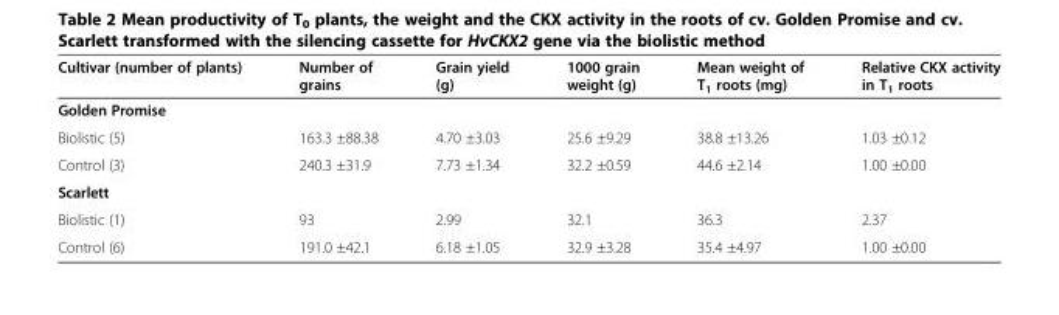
<table><thead><tr><td>Cultivar (number of plants)</td><td>Number of grains</td><td>Grain yield (g)</td><td>1000 grain weight (g)</td><td>Mean weight of T<sub>1</sub> roots (mg)</td><td>Relative CKX activity in T<sub>1</sub> roots</td></tr></thead><tbody><tr><td colspan="6">Golden Promise</td></tr><tr><td>Biolistic (5)</td><td>163.3 ±88.38</td><td>4.70 ±3.03</td><td>25.6 ±9.29</td><td>38.8 ±13.26</td><td>1.03 ±0.12</td></tr><tr><td>Control (3)</td><td>240.3 ±31.9</td><td>7.73 ±1.34</td><td>32.2 ±0.59</td><td>44.6 ±2.14</td><td>1.00 ±0.00</td></tr><tr><td colspan="6">Scarlett</td></tr><tr><td>Biolistic (1)</td><td>93</td><td>2.99</td><td>32.1</td><td>36.3</td><td>2.37</td></tr><tr><td>Control (6)</td><td>191.0 ±42.1</td><td>6.18 ±1.05</td><td>32.9 ±3.28</td><td>35.4 ±4.97</td><td>1.00 ±0.00</td></tr></tbody></table>